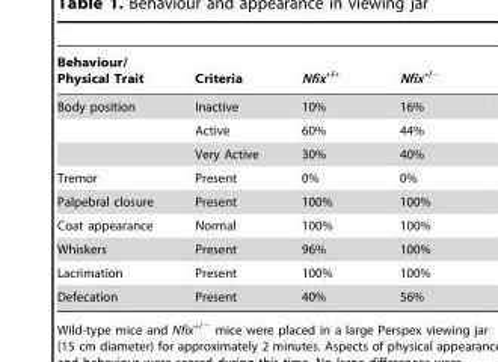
<table><thead><tr><td>Behaviour/ Physical Trait</td><td>Criteria</td><td>Nfix<sup>+/+</sup></td><td>Nfix<sup>+/−</sup></td></tr></thead><tbody><tr><td rowspan="3">Body position</td><td>Inactive</td><td>10%</td><td>16%</td></tr><tr><td>Active</td><td>60%</td><td>44%</td></tr><tr><td>Very Active</td><td>30%</td><td>40%</td></tr><tr><td>Tremor</td><td>Present</td><td>0%</td><td>0%</td></tr><tr><td>Palpebral closure</td><td>Present</td><td>100%</td><td>100%</td></tr><tr><td>Coat appearance</td><td>Normal</td><td>100%</td><td>100%</td></tr><tr><td>Whiskers</td><td>Present</td><td>96%</td><td>100%</td></tr><tr><td>Lacrimation</td><td>Present</td><td>100%</td><td>100%</td></tr><tr><td>Defecation</td><td>Present</td><td>40%</td><td>56%</td></tr></tbody></table>